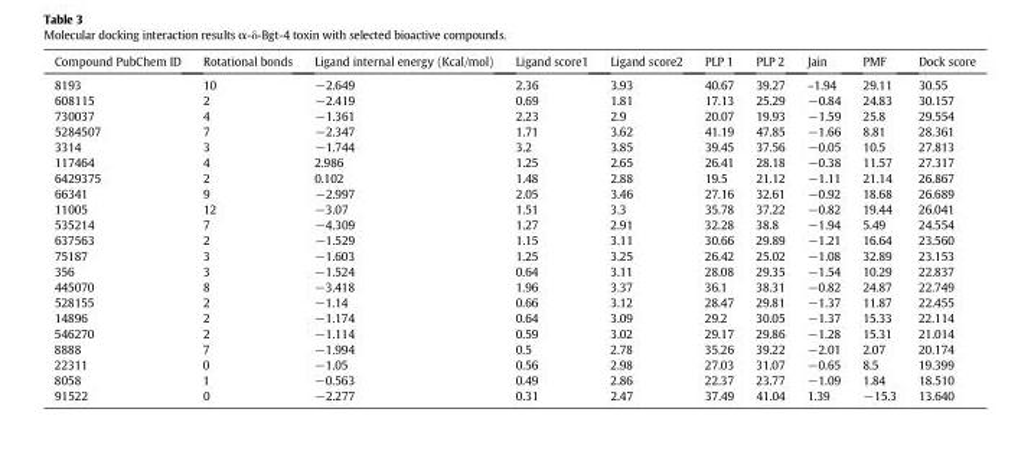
<table><thead><tr><td>Compound PubChem ID</td><td>Rotational bonds</td><td>Ligand internal energy (Kcal/mol)</td><td>Ligand score1</td><td>Ligand score2</td><td>PLP 1</td><td>PLP 2</td><td>Jain</td><td>PMF</td><td>Dock score</td></tr></thead><tbody><tr><td>8193</td><td>10</td><td>−2.649</td><td>2.36</td><td>3.93</td><td>40.67</td><td>39.27</td><td>–1.94</td><td>29.11</td><td>30.55</td></tr><tr><td>608115</td><td>2</td><td>−2.419</td><td>0.69</td><td>1.81</td><td>17.13</td><td>25.29</td><td>−0.84</td><td>24.83</td><td>30.157</td></tr><tr><td>730037</td><td>4</td><td>−1.361</td><td>2.23</td><td>2.9</td><td>20.07</td><td>19.93</td><td>−1.59</td><td>25.8</td><td>29.554</td></tr><tr><td>5284507</td><td>7</td><td>−2.347</td><td>1.71</td><td>3.62</td><td>41.19</td><td>47.85</td><td>−1.66</td><td>8.81</td><td>28.361</td></tr><tr><td>3314</td><td>3</td><td>−1.744</td><td>3.2</td><td>3.85</td><td>39.45</td><td>37.56</td><td>−0.05</td><td>10.5</td><td>27.813</td></tr><tr><td>117464</td><td>4</td><td>2.986</td><td>1.25</td><td>2.65</td><td>26.41</td><td>28.18</td><td>−0.38</td><td>11.57</td><td>27.317</td></tr><tr><td>6429375</td><td>2</td><td>0.102</td><td>1.48</td><td>2.88</td><td>19.5</td><td>21.12</td><td>−1.11</td><td>21.14</td><td>26.867</td></tr><tr><td>66341</td><td>9</td><td>−2.997</td><td>2.05</td><td>3.46</td><td>27.16</td><td>32.61</td><td>−0.92</td><td>18.68</td><td>26.689</td></tr><tr><td>11005</td><td>12</td><td>−3.07</td><td>1.51</td><td>3.3</td><td>35.78</td><td>37.22</td><td>−0.82</td><td>19.44</td><td>26.041</td></tr><tr><td>535214</td><td>7</td><td>−4.309</td><td>1.27</td><td>2.91</td><td>32.28</td><td>38.8</td><td>−1.94</td><td>5.49</td><td>24.554</td></tr><tr><td>637563</td><td>2</td><td>−1.529</td><td>1.15</td><td>3.11</td><td>30.66</td><td>29.89</td><td>−1.21</td><td>16.64</td><td>23.560</td></tr><tr><td>75187</td><td>3</td><td>−1.603</td><td>1.25</td><td>3.25</td><td>26.42</td><td>25.02</td><td>−1.08</td><td>32.89</td><td>23.153</td></tr><tr><td>356</td><td>3</td><td>−1.524</td><td>0.64</td><td>3.11</td><td>28.08</td><td>29.35</td><td>−1.54</td><td>10.29</td><td>22.837</td></tr><tr><td>445070</td><td>8</td><td>−3.418</td><td>1.96</td><td>3.37</td><td>36.1</td><td>38.31</td><td>−0.82</td><td>24.87</td><td>22.749</td></tr><tr><td>528155</td><td>2</td><td>−1.14</td><td>0.66</td><td>3.12</td><td>28.47</td><td>29.81</td><td>−1.37</td><td>11.87</td><td>22.455</td></tr><tr><td>14896</td><td>2</td><td>−1.174</td><td>0.64</td><td>3.09</td><td>29.2</td><td>30.05</td><td>−1.37</td><td>15.33</td><td>22.114</td></tr><tr><td>546270</td><td>2</td><td>−1.114</td><td>0.59</td><td>3.02</td><td>29.17</td><td>29.86</td><td>−1.28</td><td>15.31</td><td>21.014</td></tr><tr><td>8888</td><td>7</td><td>−1.994</td><td>0.5</td><td>2.78</td><td>35.26</td><td>39.22</td><td>−2.01</td><td>2.07</td><td>20.174</td></tr><tr><td>22311</td><td>0</td><td>−1.05</td><td>0.56</td><td>2.98</td><td>27.03</td><td>31.07</td><td>−0.65</td><td>8.5</td><td>19.399</td></tr><tr><td>8058</td><td>1</td><td>−0.563</td><td>0.49</td><td>2.86</td><td>22.37</td><td>23.77</td><td>−1.09</td><td>1.84</td><td>18.510</td></tr><tr><td>91522</td><td>0</td><td>−2.277</td><td>0.31</td><td>2.47</td><td>37.49</td><td>41.04</td><td>1.39</td><td>−15.3</td><td>13.640</td></tr></tbody></table>